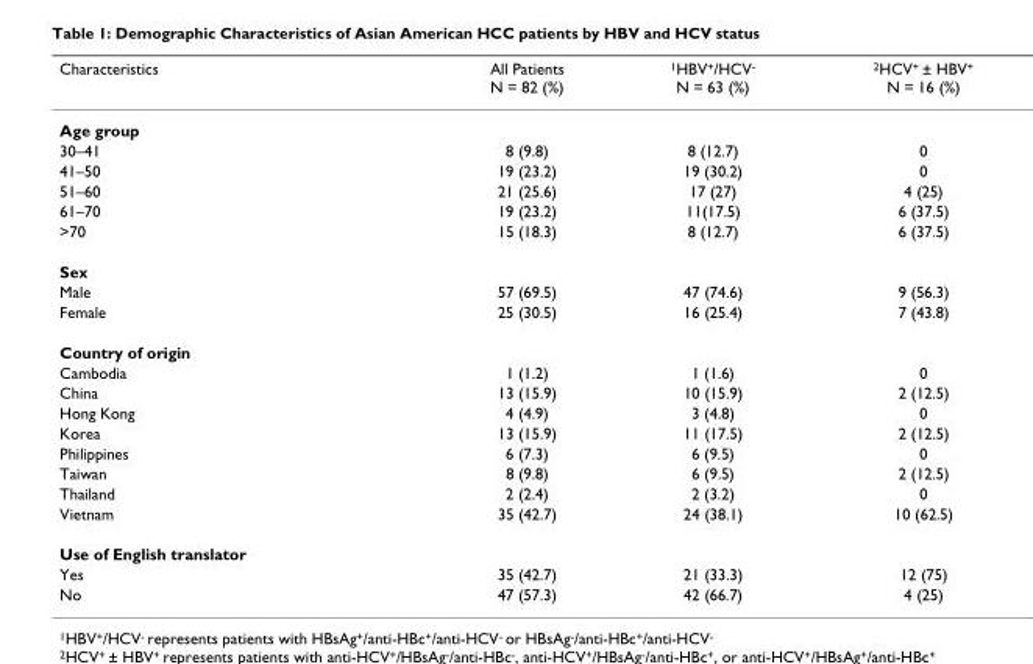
<table><thead><tr><td>Characteristics</td><td>All Patients N = 82 (%)</td><td><sup>1</sup>HBV<sup>+</sup>/HCV<sup>-</sup> N = 63 (%)</td><td><sup>2</sup>HCV<sup>+</sup> ± HBV<sup>+</sup> N = 16 (%)</td></tr></thead><tbody><tr><td colspan="4">Age group</td></tr><tr><td>30–41</td><td>8 (9.8)</td><td>8 (12.7)</td><td>0</td></tr><tr><td>41–50</td><td>19 (23.2)</td><td>19 (30.2)</td><td>0</td></tr><tr><td>51–60</td><td>21 (25.6)</td><td>17 (27)</td><td>4 (25)</td></tr><tr><td>61–70</td><td>19 (23.2)</td><td>11(17.5)</td><td>6 (37.5)</td></tr><tr><td>&gt;70</td><td>15 (18.3)</td><td>8 (12.7)</td><td>6 (37.5)</td></tr><tr><td colspan="4">Sex</td></tr><tr><td>Male</td><td>57 (69.5)</td><td>47 (74.6)</td><td>9 (56.3)</td></tr><tr><td>Female</td><td>25 (30.5)</td><td>16 (25.4)</td><td>7 (43.8)</td></tr><tr><td colspan="4">Country of origin</td></tr><tr><td>Cambodia</td><td>1 (1.2)</td><td>1 (1.6)</td><td>0</td></tr><tr><td>China</td><td>13 (15.9)</td><td>10 (15.9)</td><td>2 (12.5)</td></tr><tr><td>Hong Kong</td><td>4 (4.9)</td><td>3 (4.8)</td><td>0</td></tr><tr><td>Korea</td><td>13 (15.9)</td><td>11 (17.5)</td><td>2 (12.5)</td></tr><tr><td>Philippines</td><td>6 (7.3)</td><td>6 (9.5)</td><td>0</td></tr><tr><td>Taiwan</td><td>8 (9.8)</td><td>6 (9.5)</td><td>2 (12.5)</td></tr><tr><td>Thailand</td><td>2 (2.4)</td><td>2 (3.2)</td><td>0</td></tr><tr><td>Vietnam</td><td>35 (42.7)</td><td>24 (38.1)</td><td>10 (62.5)</td></tr><tr><td colspan="4">Use of English translator</td></tr><tr><td>Yes</td><td>35 (42.7)</td><td>21 (33.3)</td><td>12 (75)</td></tr><tr><td>No</td><td>47 (57.3)</td><td>42 (66.7)</td><td>4 (25)</td></tr></tbody></table>